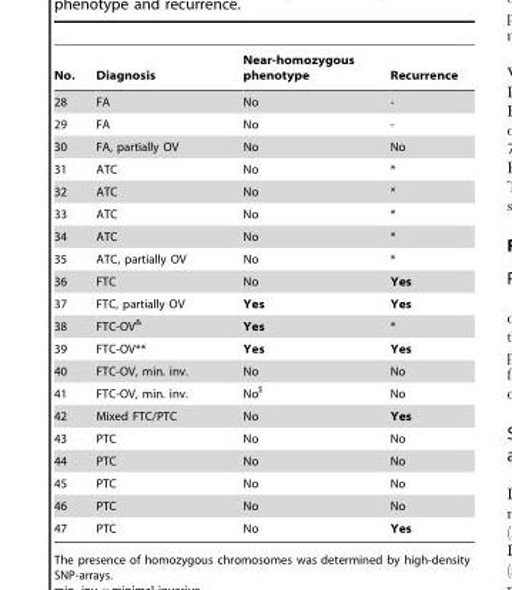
<table><thead><tr><td>No.</td><td>Diagnosis</td><td>Near-homozygous phenotype</td><td>Recurrence</td></tr></thead><tbody><tr><td>28</td><td>FA</td><td>No</td><td>-</td></tr><tr><td>29</td><td>FA</td><td>No</td><td>-</td></tr><tr><td>30</td><td>FA, partially OV</td><td>No</td><td>No</td></tr><tr><td>31</td><td>ATC</td><td>No</td><td>*</td></tr><tr><td>32</td><td>ATC</td><td>No</td><td>*</td></tr><tr><td>33</td><td>ATC</td><td>No</td><td>*</td></tr><tr><td>34</td><td>ATC</td><td>No</td><td>*</td></tr><tr><td>35</td><td>ATC, partially OV</td><td>No</td><td>*</td></tr><tr><td>36</td><td>FTC</td><td>No</td><td>Yes</td></tr><tr><td>37</td><td>FTC, partially OV</td><td>Yes</td><td>Yes</td></tr><tr><td>38</td><td>FTC-OV&amp;</td><td>Yes</td><td>*</td></tr><tr><td>39</td><td>FTC-OV**</td><td>Yes</td><td>Yes</td></tr><tr><td>40</td><td>FTC-OV, min. inv.</td><td>No</td><td>No</td></tr><tr><td>41</td><td>FTC-OV, min. inv.</td><td>No$</td><td>No</td></tr><tr><td>42</td><td>Mixed FTC/PTC</td><td>No</td><td>Yes</td></tr><tr><td>43</td><td>PTC</td><td>No</td><td>No</td></tr><tr><td>44</td><td>PTC</td><td>No</td><td>No</td></tr><tr><td>45</td><td>PTC</td><td>No</td><td>No</td></tr><tr><td>46</td><td>PTC</td><td>No</td><td>No</td></tr><tr><td>47</td><td>PTC</td><td>No</td><td>Yes</td></tr></tbody></table>